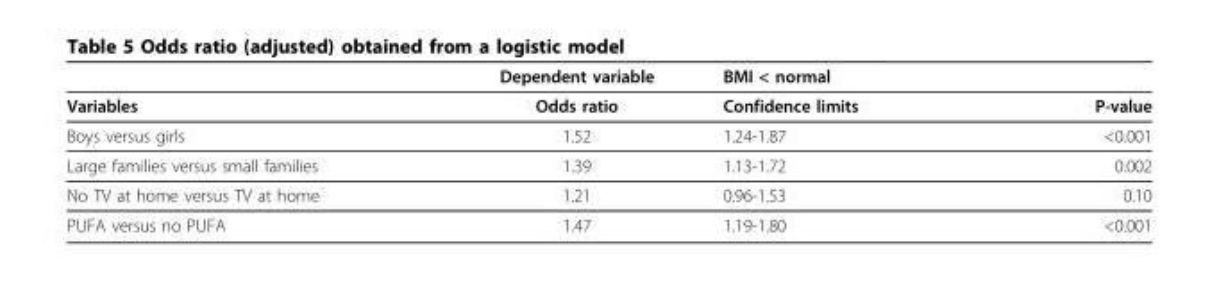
<table><thead><tr><td></td><td>Dependent variable</td><td>BMI &lt; normal</td><td></td></tr></thead><tbody><tr><td>Variables</td><td>Odds ratio</td><td>Confidence limits</td><td>P-value</td></tr><tr><td>Boys versus girls</td><td>1.52</td><td>1.24-1.87</td><td>&lt;0.001</td></tr><tr><td>Large families versus small families</td><td>1.39</td><td>1.13-1.72</td><td>0.002</td></tr><tr><td>No TV at home versus TV at home</td><td>1.21</td><td>0.96-1.53</td><td>0.10</td></tr><tr><td>PUFA versus no PUFA</td><td>1.47</td><td>1.19-1.80</td><td>&lt;0.001</td></tr></tbody></table>